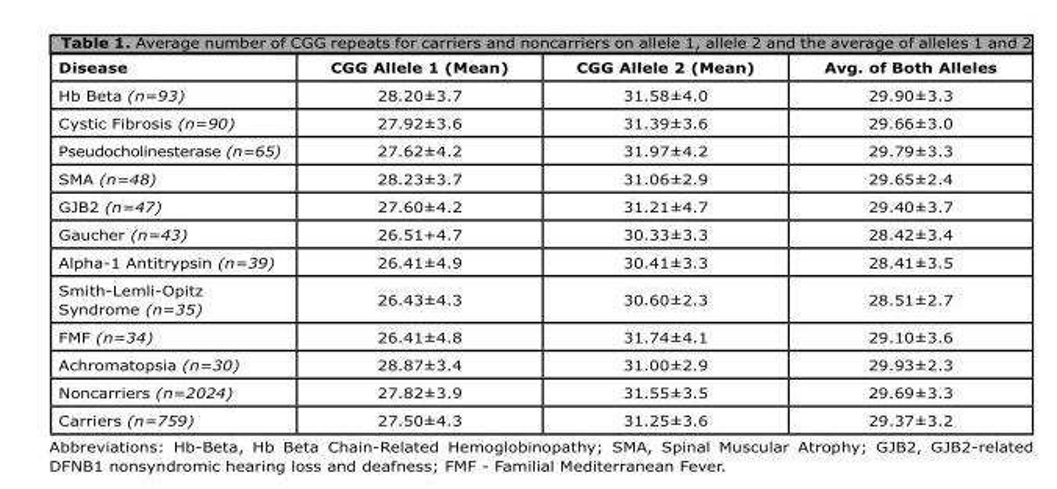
<table><thead><tr><td>Disease</td><td>CGG Allele 1 (Mean)</td><td>CGG Allele 2 (Mean)</td><td>Avg. of Both Alleles</td></tr></thead><tbody><tr><td>Hb Beta (n=93)</td><td>28.20±3.7</td><td>31.58±4.0</td><td>29.90±3.3</td></tr><tr><td>Cystic Fibrosis (n=90)</td><td>27.92±3.6</td><td>31.39±3.6</td><td>29.66±3.0</td></tr><tr><td>Pseudocholinesterase (n=65)</td><td>27.62±4.2</td><td>31.97±4.2</td><td>29.79±3.3</td></tr><tr><td>SMA (n=48)</td><td>28.23±3.7</td><td>31.06±2.9</td><td>29.65±2.4</td></tr><tr><td>GJB2 (n=47)</td><td>27.60±4.2</td><td>31.21±4.7</td><td>29.40±3.7</td></tr><tr><td>Gaucher (n=43)</td><td>26.51+4.7</td><td>30.33±3.3</td><td>28.42±3.4</td></tr><tr><td>Alpha-1 Antitrypsin (n=39)</td><td>26.41±4.9</td><td>30.41±3.3</td><td>28.41±3.5</td></tr><tr><td>Smith-Lemli-Opitz Syndrome (n=35)</td><td>26.43±4.3</td><td>30.60±2.3</td><td>28.51±2.7</td></tr><tr><td>FMF (n=34)</td><td>26.41±4.8</td><td>31.74±4.1</td><td>29.10±3.6</td></tr><tr><td>Achromatopsia (n=30)</td><td>28.87±3.4</td><td>31.00±2.9</td><td>29.93±2.3</td></tr><tr><td>Noncarriers (n=2024)</td><td>27.82±3.9</td><td>31.55±3.5</td><td>29.69±3.3</td></tr><tr><td>Carriers (n=759)</td><td>27.50±4.3</td><td>31.25±3.6</td><td>29.37±3.2</td></tr></tbody></table>